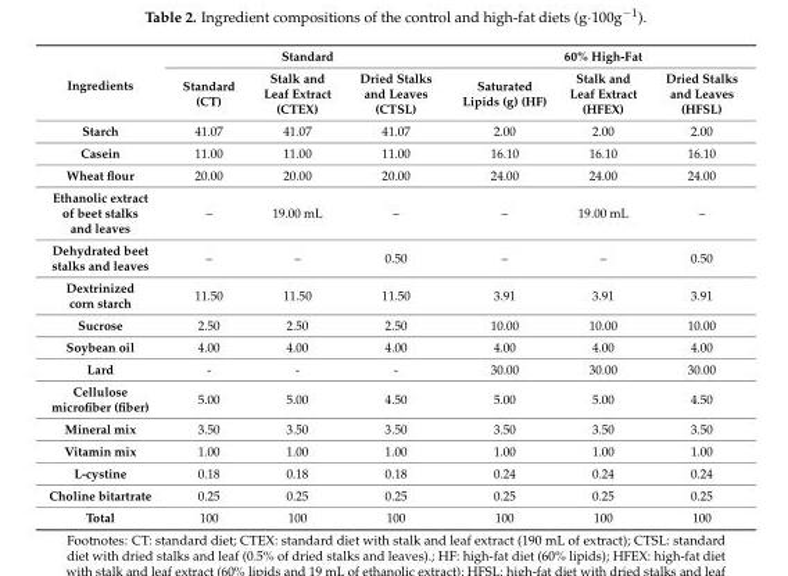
<table><thead><tr><td rowspan="2">Ingredients</td><td colspan="3">Standard</td><td colspan="3">60% High-Fat</td></tr><tr><td>Standard (CT)</td><td>Stalk and Leaf Extract (CTEX)</td><td>Dried Stalks and Leaves (CTSL)</td><td>Saturated Lipids (g) (HF)</td><td>Stalk and Leaf Extract (HFEX)</td><td>Dried Stalks and Leaves (HFSL)</td></tr></thead><tbody><tr><td>Starch</td><td>41.07</td><td>41.07</td><td>41.07</td><td>2.00</td><td>2.00</td><td>2.00</td></tr><tr><td>Casein</td><td>11.00</td><td>11.00</td><td>11.00</td><td>16.10</td><td>16.10</td><td>16.10</td></tr><tr><td>Wheat flour</td><td>20.00</td><td>20.00</td><td>20.00</td><td>24.00</td><td>24.00</td><td>24.00</td></tr><tr><td>Ethanolic extract of beet stalks and leaves</td><td>–</td><td>19.00 mL</td><td>–</td><td>–</td><td>19.00 mL</td><td>–</td></tr><tr><td>Dehydrated beet stalks and leaves</td><td>–</td><td>–</td><td>0.50</td><td>–</td><td>–</td><td>0.50</td></tr><tr><td>Dextrinized corn starch</td><td>11.50</td><td>11.50</td><td>11.50</td><td>3.91</td><td>3.91</td><td>3.91</td></tr><tr><td>Sucrose</td><td>2.50</td><td>2.50</td><td>2.50</td><td>10.00</td><td>10.00</td><td>10.00</td></tr><tr><td>Soybean oil</td><td>4.00</td><td>4.00</td><td>4.00</td><td>4.00</td><td>4.00</td><td>4.00</td></tr><tr><td>Lard</td><td>-</td><td>-</td><td>-</td><td>30.00</td><td>30.00</td><td>30.00</td></tr><tr><td>Cellulose microfiber (fiber)</td><td>5.00</td><td>5.00</td><td>4.50</td><td>5.00</td><td>5.00</td><td>4.50</td></tr><tr><td>Mineral mix</td><td>3.50</td><td>3.50</td><td>3.50</td><td>3.50</td><td>3.50</td><td>3.50</td></tr><tr><td>Vitamin mix</td><td>1.00</td><td>1.00</td><td>1.00</td><td>1.00</td><td>1.00</td><td>1.00</td></tr><tr><td>L-cystine</td><td>0.18</td><td>0.18</td><td>0.18</td><td>0.24</td><td>0.24</td><td>0.24</td></tr><tr><td>Choline bitartrate</td><td>0.25</td><td>0.25</td><td>0.25</td><td>0.25</td><td>0.25</td><td>0.25</td></tr><tr><td>Total</td><td>100</td><td>100</td><td>100</td><td>100</td><td>100</td><td>100</td></tr></tbody></table>